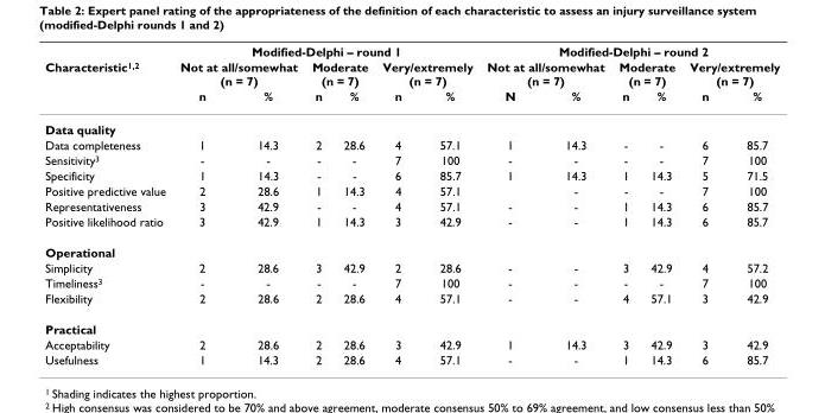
<table><thead><tr><td rowspan="3">Characteristic1,2</td><td colspan="6">Modified-Delphi – round 1</td><td colspan="6">Modified-Delphi – round 2</td></tr><tr><td colspan="2">Not at all/somewhat (n = 7)</td><td colspan="2">Moderate (n = 7)</td><td colspan="2">Very/extremely (n = 7)</td><td colspan="2">Not at all/somewhat (n = 7)</td><td colspan="2">Moderate (n = 7)</td><td colspan="2">Very/extremely (n = 7)</td></tr><tr><td>n</td><td>%</td><td>n</td><td>%</td><td>n</td><td>%</td><td>N</td><td>%</td><td>n</td><td>%</td><td>n</td><td>%</td></tr></thead><tbody><tr><td colspan="13">Data quality</td></tr><tr><td>Data completeness</td><td>1</td><td>14.3</td><td>2</td><td>28.6</td><td>4</td><td>57.1</td><td>1</td><td>14.3</td><td>-</td><td>-</td><td>6</td><td>85.7</td></tr><tr><td>Sensitivity3</td><td>-</td><td>-</td><td>-</td><td>-</td><td>7</td><td>100</td><td>-</td><td>-</td><td>-</td><td>-</td><td>7</td><td>100</td></tr><tr><td>Specificity</td><td>1</td><td>14.3</td><td>-</td><td>-</td><td>6</td><td>85.7</td><td>1</td><td>14.3</td><td>1</td><td>14.3</td><td>5</td><td>71.5</td></tr><tr><td>Positive predictive value</td><td>2</td><td>28.6</td><td>1</td><td>14.3</td><td>4</td><td>57.1</td><td></td><td>-</td><td>-</td><td>-</td><td>7</td><td>100</td></tr><tr><td>Representativeness</td><td>3</td><td>42.9</td><td>-</td><td>-</td><td>4</td><td>57.1</td><td>-</td><td>-</td><td>1</td><td>14.3</td><td>6</td><td>85.7</td></tr><tr><td>Positive likelihood ratio</td><td>3</td><td>42.9</td><td>1</td><td>14.3</td><td>3</td><td>42.9</td><td>-</td><td>-</td><td>1</td><td>14.3</td><td>6</td><td>85.7</td></tr><tr><td colspan="13">Operational</td></tr><tr><td>Simplicity</td><td>2</td><td>28.6</td><td>3</td><td>42.9</td><td>2</td><td>28.6</td><td>-</td><td>-</td><td>3</td><td>42.9</td><td>4</td><td>57.2</td></tr><tr><td>Timeliness3</td><td>-</td><td>-</td><td>-</td><td>-</td><td>7</td><td>100</td><td>-</td><td>-</td><td>-</td><td>-</td><td>7</td><td>100</td></tr><tr><td>Flexibility</td><td>2</td><td>28.6</td><td>2</td><td>28.6</td><td>4</td><td>57.1</td><td>-</td><td>-</td><td>4</td><td>57.1</td><td>3</td><td>42.9</td></tr><tr><td colspan="13">Practical</td></tr><tr><td>Acceptability</td><td>2</td><td>28.6</td><td>2</td><td>28.6</td><td>3</td><td>42.9</td><td>1</td><td>14.3</td><td>3</td><td>42.9</td><td>3</td><td>42.9</td></tr><tr><td>Usefulness</td><td>1</td><td>14.3</td><td>2</td><td>28.6</td><td>4</td><td>57.1</td><td>-</td><td>-</td><td>1</td><td>14.3</td><td>6</td><td>85.7</td></tr></tbody></table>